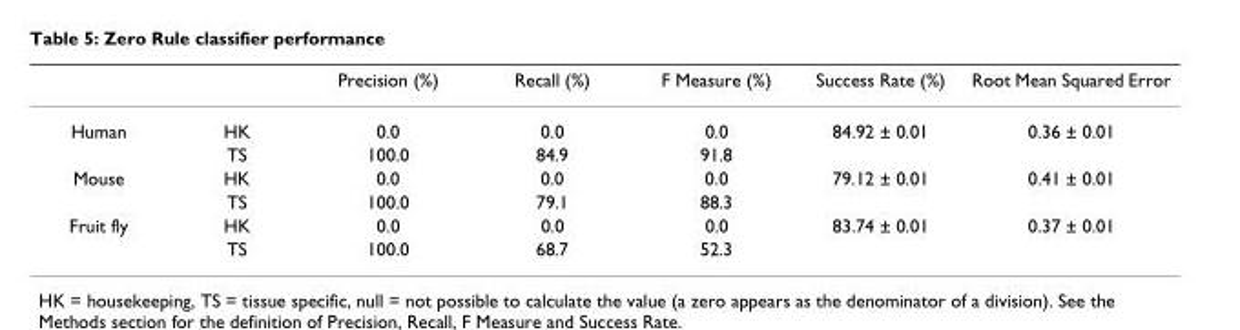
<table><thead><tr><td></td><td></td><td>Precision (%)</td><td>Recall (%)</td><td>F Measure (%)</td><td>Success Rate (%)</td><td>Root Mean Squared Error</td></tr></thead><tbody><tr><td rowspan="2">Human</td><td>HK</td><td>0.0</td><td>0.0</td><td>0.0</td><td>84.92 ± 0.01</td><td>0.36 ± 0.01</td></tr><tr><td>TS</td><td>100.0</td><td>84.9</td><td>91.8</td><td></td><td></td></tr><tr><td rowspan="2">Mouse</td><td>HK</td><td>0.0</td><td>0.0</td><td>0.0</td><td>79.12 ± 0.01</td><td>0.41 ± 0.01</td></tr><tr><td>TS</td><td>100.0</td><td>79.1</td><td>88.3</td><td></td><td></td></tr><tr><td rowspan="2">Fruit fly</td><td>HK</td><td>0.0</td><td>0.0</td><td>0.0</td><td>83.74 ± 0.01</td><td>0.37 ± 0.01</td></tr><tr><td>TS</td><td>100.0</td><td>68.7</td><td>52.3</td><td></td><td></td></tr></tbody></table>